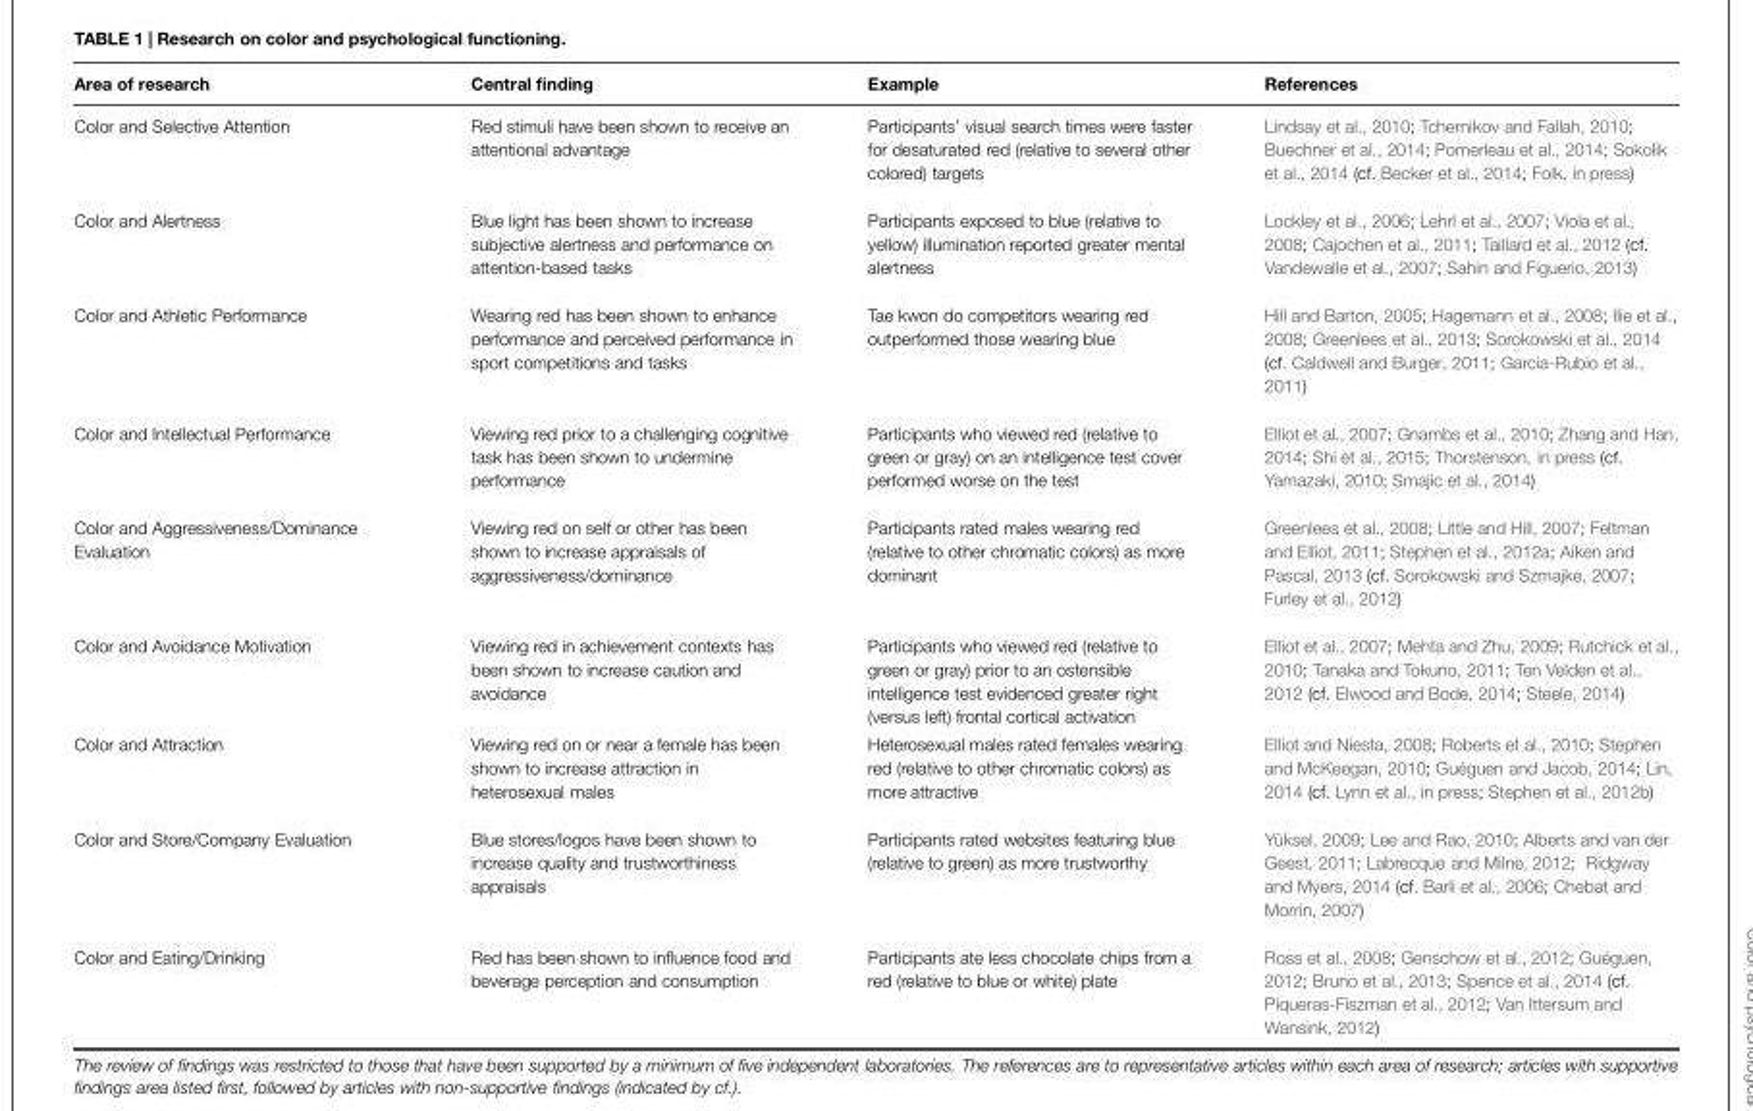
<table><thead><tr><td>Area of research</td><td>Central finding</td><td>Example</td><td>References</td></tr></thead><tbody><tr><td>Color and Selective Attention</td><td>Red stimuli have been shown to receive an attentional advantage</td><td>Participants’ visual search times were faster for desaturated red (relative to several other colored) targets</td><td>Lindsay et al., 2010; Tchernikov and Fallah, 2010; Buechner et al., 2014; Pomerleau et al., 2014; Sokolik et al., 2014 (cf. Becker et al., 2014; Folk, in press)</td></tr><tr><td>Color and Alertness</td><td>Blue light has been shown to increase subjective alertness and performance on attention-based tasks</td><td>Participants exposed to blue (relative to yellow) illumination reported greater mental alertness</td><td>Lockley et al., 2006; Lehrl et al., 2007; Viola et al., 2008; Cajochen et al., 2011; Taillard et al., 2012 (cf. Vandewalle et al., 2007; Sahin and Figuerio, 2013)</td></tr><tr><td>Color and Athletic Performance</td><td>Wearing red has been shown to enhance performance and perceived performance in sport competitions and tasks</td><td>Tae kwon do competitors wearing red outperformed those wearing blue</td><td>Hill and Barton, 2005; Hagemann et al., 2008; Ilie et al., 2008; Greenlees et al., 2013; Sorokowski et al., 2014 (cf. Caldwell and Burger, 2011; Garcia-Rubio et al., 2011)</td></tr><tr><td>Color and Intellectual Performance</td><td>Viewing red prior to a challenging cognitive task has been shown to undermine performance</td><td>Participants who viewed red (relative to green or gray) on an intelligence test cover performed worse on the test</td><td>Elliot et al., 2007; Gnambs et al., 2010; Zhang and Han, 2014; Shi et al., 2015; Thorstenson, in press (cf. Yamazaki, 2010; Smajic et al., 2014)</td></tr><tr><td>Color and Aggressiveness/Dominance Evaluation</td><td>Viewing red on self or other has been shown to increase appraisals of aggressiveness/dominance</td><td>Participants rated males wearing red (relative to other chromatic colors) as more dominant</td><td>Greenlees et al., 2008; Little and Hill, 2007; Feltman and Elliot, 2011; Stephen et al., 2012a; Aiken and Pascal, 2013 (cf. Sorokowski and Szmajke, 2007; Furley et al., 2012)</td></tr><tr><td>Color and Avoidance Motivation</td><td>Viewing red in achievement contexts has been shown to increase caution and avoidance</td><td>Participants who viewed red (relative to green or gray) prior to an ostensible intelligence test evidenced greater right (versus left) frontal cortical activation</td><td>Elliot et al., 2007; Mehta and Zhu, 2009; Rutchick et al., 2010; Tanaka and Tokuno, 2011; Ten Velden et al., 2012 (cf. Elwood and Bode, 2014; Steele, 2014)</td></tr><tr><td>Color and Attraction</td><td>Viewing red on or near a female has been shown to increase attraction in heterosexual males</td><td>Heterosexual males rated females wearing red (relative to other chromatic colors) as more attractive</td><td>Elliot and Niesta, 2008; Roberts et al., 2010; Stephen and McKeegan, 2010; Guéguen and Jacob, 2014; Lin, 2014 (cf. Lynn et al., in press; Stephen et al., 2012b)</td></tr><tr><td>Color and Store/Company Evaluation</td><td>Blue stores/logos have been shown to increase quality and trustworthiness appraisals</td><td>Participants rated websites featuring blue (relative to green) as more trustworthy</td><td>Yüksel, 2009; Lee and Rao, 2010; Alberts and van der Geest, 2011; Labrecque and Milne, 2012; Ridgway and Myers, 2014 (cf. Barli et al., 2006; Chebat and Morrin, 2007)</td></tr><tr><td>Color and Eating/Drinking</td><td>Red has been shown to influence food and beverage perception and consumption</td><td>Participants ate less chocolate chips from a red (relative to blue or white) plate</td><td>Ross et al., 2008; Genschow et al., 2012; Guéguen, 2012; Bruno et al., 2013; Spence et al., 2014 (cf. Piqueras-Fiszman et al., 2012; Van Ittersum and Wansink, 2012)</td></tr></tbody></table>